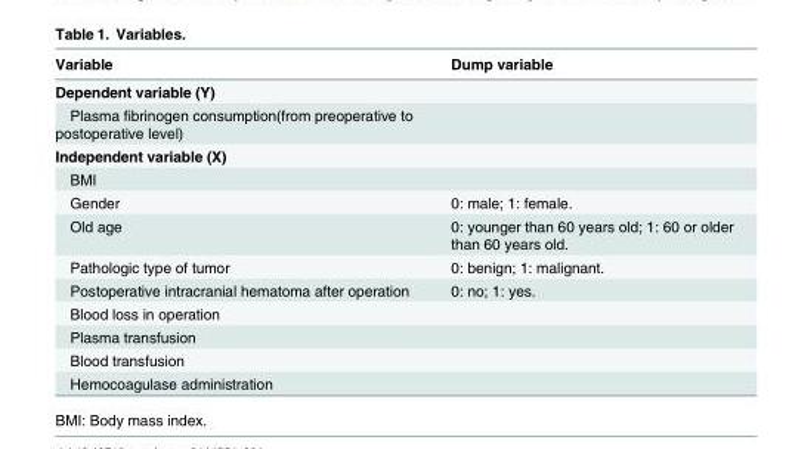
<table><thead><tr><td>Variable</td><td>Dump variable</td></tr></thead><tbody><tr><td colspan="2">Dependent variable (Y)</td></tr><tr><td colspan="2">Plasma fibrinogen consumption(from preoperative to postoperative level)</td></tr><tr><td colspan="2">Independent variable (X)</td></tr><tr><td colspan="2">BMI</td></tr><tr><td>Gender</td><td>0: male; 1: female.</td></tr><tr><td>Old age</td><td>0: younger than 60 years old; 1: 60 or older than 60 years old.</td></tr><tr><td>Pathologic type of tumor</td><td>0: benign; 1: malignant.</td></tr><tr><td>Postoperative intracranial hematoma after operation</td><td>0: no; 1: yes.</td></tr><tr><td colspan="2">Blood loss in operation</td></tr><tr><td colspan="2">Plasma transfusion</td></tr><tr><td colspan="2">Blood transfusion</td></tr><tr><td>Hemocoagulase administration</td><td></td></tr></tbody></table>